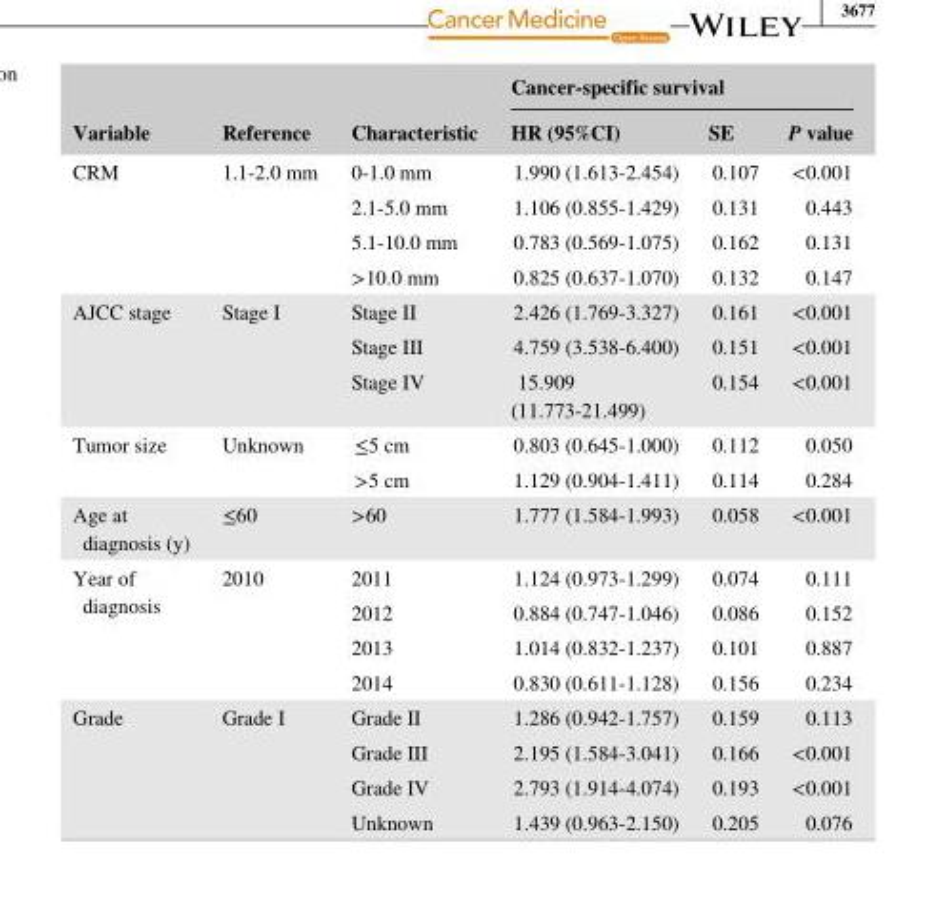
<table><thead><tr><td rowspan="2">Variable</td><td rowspan="2">Reference</td><td rowspan="2">Characteristic</td><td colspan="3">Cancer- specific survival</td></tr><tr><td>HR (95%CI)</td><td>SE</td><td>P value</td></tr></thead><tbody><tr><td rowspan="4">CRM</td><td rowspan="4">1.1- 2.0 mm</td><td>0- 1.0 mm</td><td>1.990 (1.613- 2.454)</td><td>0.107</td><td>&lt;0.001</td></tr><tr><td>2.1- 5.0 mm</td><td>1.106 (0.855- 1.429)</td><td>0.131</td><td>0.443</td></tr><tr><td>5.1- 10.0 mm</td><td>0.783 (0.569- 1.075)</td><td>0.162</td><td>0.131</td></tr><tr><td>&gt;10.0 mm</td><td>0.825 (0.637- 1.070)</td><td>0.132</td><td>0.147</td></tr><tr><td rowspan="3">AJCC stage</td><td rowspan="3">Stage I</td><td>Stage II</td><td>2.426 (1.769- 3.327)</td><td>0.161</td><td>&lt;0.001</td></tr><tr><td>Stage III</td><td>4.759 (3.538- 6.400)</td><td>0.151</td><td>&lt;0.001</td></tr><tr><td>Stage IV</td><td>15.909 (11.773- 21.499)</td><td>0.154</td><td>&lt;0.001</td></tr><tr><td rowspan="2">Tumor size</td><td rowspan="2">Unknown</td><td>≤5 cm</td><td>0.803 (0.645- 1.000)</td><td>0.112</td><td>0.050</td></tr><tr><td>&gt;5 cm</td><td>1.129 (0.904- 1.411)</td><td>0.114</td><td>0.284</td></tr><tr><td>Age at diagnosis (y)</td><td>≤60</td><td>&gt;60</td><td>1.777 (1.584- 1.993)</td><td>0.058</td><td>&lt;0.001</td></tr><tr><td rowspan="4">Year of diagnosis</td><td rowspan="4">2010</td><td>2011</td><td>1.124 (0.973- 1.299)</td><td>0.074</td><td>0.111</td></tr><tr><td>2012</td><td>0.884 (0.747- 1.046)</td><td>0.086</td><td>0.152</td></tr><tr><td>2013</td><td>1.014 (0.832- 1.237)</td><td>0.101</td><td>0.887</td></tr><tr><td>2014</td><td>0.830 (0.611- 1.128)</td><td>0.156</td><td>0.234</td></tr><tr><td rowspan="4">Grade</td><td rowspan="4">Grade I</td><td>Grade II</td><td>1.286 (0.942- 1.757)</td><td>0.159</td><td>0.113</td></tr><tr><td>Grade III</td><td>2.195 (1.584- 3.041)</td><td>0.166</td><td>&lt;0.001</td></tr><tr><td>Grade IV</td><td>2.793 (1.914- 4.074)</td><td>0.193</td><td>&lt;0.001</td></tr><tr><td>Unknown</td><td>1.439 (0.963- 2.150)</td><td>0.205</td><td>0.076</td></tr></tbody></table>